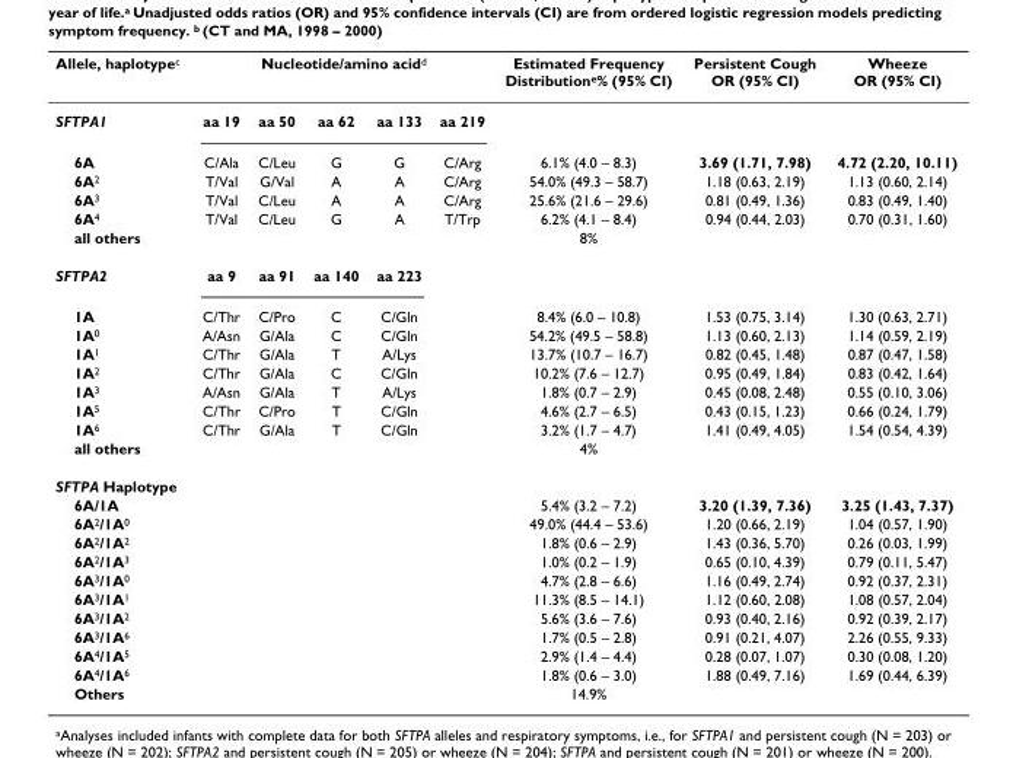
<table><thead><tr><td rowspan="2">Allele, haplotype<sup>c</sup> SFTPA1</td><td colspan="5">Nucleotide/amino acid<sup>d</sup></td><td rowspan="2">Estimated Frequency Distribution<sup>e</sup>% (95% CI)</td><td rowspan="2">Persistent Cough OR (95% CI)</td><td rowspan="2">Wheeze OR (95% CI)</td></tr><tr><td>aa 19</td><td>aa 50</td><td>aa 62</td><td>aa 133</td><td>aa 219</td></tr></thead><tbody><tr><td>6A</td><td>C/Ala</td><td>C/Leu</td><td>G</td><td>G</td><td>C/Arg</td><td>6.1% (4.0 – 8.3)</td><td>3.69 (1.71, 7.98)</td><td>4.72 (2.20, 10.11)</td></tr><tr><td>6A<sup>2</sup></td><td>T/Val</td><td>G/Val</td><td>A</td><td>A</td><td>C/Arg</td><td>54.0% (49.3 – 58.7)</td><td>1.18 (0.63, 2.19)</td><td>1.13 (0.60, 2.14)</td></tr><tr><td>6A<sup>3</sup></td><td>T/Val</td><td>C/Leu</td><td>A</td><td>A</td><td>C/Arg</td><td>25.6% (21.6 – 29.6)</td><td>0.81 (0.49, 1.36)</td><td>0.83 (0.49, 1.40)</td></tr><tr><td>6A<sup>4</sup></td><td>T/Val</td><td>C/Leu</td><td>G</td><td>A</td><td>T/Trp</td><td>6.2% (4.1 – 8.4)</td><td>0.94 (0.44, 2.03)</td><td>0.70 (0.31, 1.60)</td></tr><tr><td>all others</td><td></td><td></td><td></td><td></td><td></td><td>8%</td><td></td><td></td></tr><tr><td>SFTPA2</td><td>aa 9</td><td>aa 91</td><td>aa 140</td><td>aa 223</td><td></td><td></td><td></td><td></td></tr><tr><td>1A</td><td>C/Thr</td><td>C/Pro</td><td>C</td><td>C/Gln</td><td></td><td>8.4% (6.0 – 10.8)</td><td>1.53 (0.75, 3.14)</td><td>1.30 (0.63, 2.71)</td></tr><tr><td>1A<sup>0</sup></td><td>A/Asn</td><td>G/Ala</td><td>C</td><td>C/Gln</td><td></td><td>54.2% (49.5 – 58.8)</td><td>1.13 (0.60, 2.13)</td><td>1.14 (0.59, 2.19)</td></tr><tr><td>1A<sup>1</sup></td><td>C/Thr</td><td>G/Ala</td><td>T</td><td>A/Lys</td><td></td><td>13.7% (10.7 – 16.7)</td><td>0.82 (0.45, 1.48)</td><td>0.87 (0.47, 1.58)</td></tr><tr><td>1A<sup>2</sup></td><td>C/Thr</td><td>G/Ala</td><td>C</td><td>C/Gln</td><td></td><td>10.2% (7.6 – 12.7)</td><td>0.95 (0.49, 1.84)</td><td>0.83 (0.42, 1.64)</td></tr><tr><td>1A<sup>3</sup></td><td>A/Asn</td><td>G/Ala</td><td>T</td><td>A/Lys</td><td></td><td>1.8% (0.7 – 2.9)</td><td>0.45 (0.08, 2.48)</td><td>0.55 (0.10, 3.06)</td></tr><tr><td>1A<sup>5</sup></td><td>C/Thr</td><td>C/Pro</td><td>T</td><td>C/Gln</td><td></td><td>4.6% (2.7 – 6.5)</td><td>0.43 (0.15, 1.23)</td><td>0.66 (0.24, 1.79)</td></tr><tr><td>1A<sup>6</sup></td><td>C/Thr</td><td>G/Ala</td><td>T</td><td>C/Gln</td><td></td><td>3.2% (1.7 – 4.7)</td><td>1.41 (0.49, 4.05)</td><td>1.54 (0.54, 4.39)</td></tr><tr><td>all others</td><td></td><td></td><td></td><td></td><td></td><td>4%</td><td></td><td></td></tr><tr><td colspan="9">SFTPA Haplotype</td></tr><tr><td>6A/1A</td><td></td><td></td><td></td><td></td><td></td><td>5.4% (3.2 – 7.2)</td><td>3.20 (1.39, 7.36)</td><td>3.25 (1.43, 7.37)</td></tr><tr><td>6A<sup>2</sup>/1A<sup>0</sup></td><td></td><td></td><td></td><td></td><td></td><td>49.0% (44.4 – 53.6)</td><td>1.20 (0.66, 2.19)</td><td>1.04 (0.57, 1.90)</td></tr><tr><td>6A<sup>2</sup>/1A<sup>2</sup></td><td></td><td></td><td></td><td></td><td></td><td>1.8% (0.6 – 2.9)</td><td>1.43 (0.36, 5.70)</td><td>0.26 (0.03, 1.99)</td></tr><tr><td>6A<sup>2</sup>/1A<sup>3</sup></td><td></td><td></td><td></td><td></td><td></td><td>1.0% (0.2 – 1.9)</td><td>0.65 (0.10, 4.39)</td><td>0.79 (0.11, 5.47)</td></tr><tr><td>6A<sup>3</sup>/1A<sup>0</sup></td><td></td><td></td><td></td><td></td><td></td><td>4.7% (2.8 – 6.6)</td><td>1.16 (0.49, 2.74)</td><td>0.92 (0.37, 2.31)</td></tr><tr><td>6A<sup>3</sup>/1A<sup>1</sup></td><td></td><td></td><td></td><td></td><td></td><td>11.3% (8.5 – 14.1)</td><td>1.12 (0.60, 2.08)</td><td>1.08 (0.57, 2.04)</td></tr><tr><td>6A<sup>3</sup>/1A<sup>2</sup></td><td></td><td></td><td></td><td></td><td></td><td>5.6% (3.6 – 7.6)</td><td>0.93 (0.40, 2.16)</td><td>0.92 (0.39, 2.17)</td></tr><tr><td>6A<sup>3</sup>/1A<sup>6</sup></td><td></td><td></td><td></td><td></td><td></td><td>1.7% (0.5 – 2.8)</td><td>0.91 (0.21, 4.07)</td><td>2.26 (0.55, 9.33)</td></tr><tr><td>6A<sup>4</sup>/1A<sup>5</sup></td><td></td><td></td><td></td><td></td><td></td><td>2.9% (1.4 – 4.4)</td><td>0.28 (0.07, 1.07)</td><td>0.30 (0.08, 1.20)</td></tr><tr><td>6A<sup>4</sup>/1A<sup>6</sup></td><td></td><td></td><td></td><td></td><td></td><td>1.8% (0.6 – 3.0)</td><td>1.88 (0.49, 7.16)</td><td>1.69 (0.44, 6.39)</td></tr><tr><td>Others</td><td></td><td></td><td></td><td></td><td></td><td>14.9%</td><td></td><td></td></tr></tbody></table>